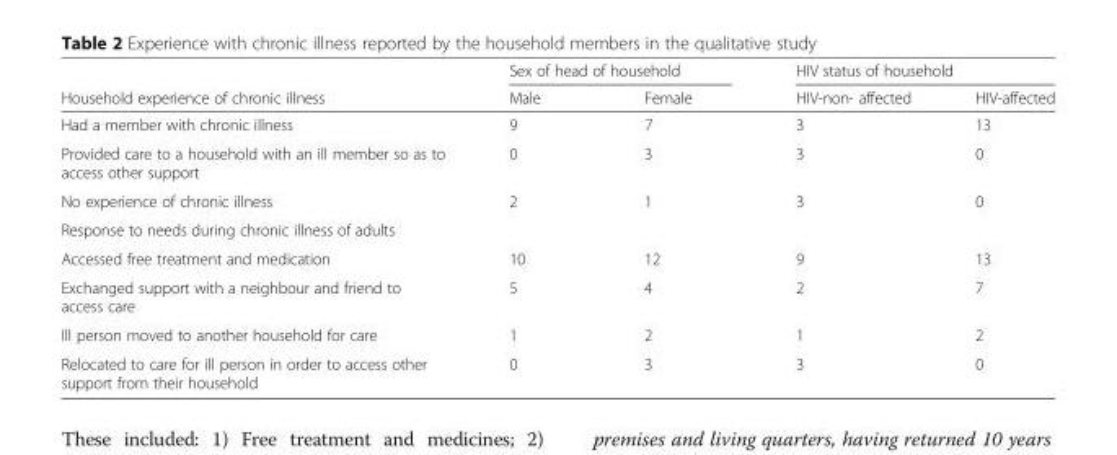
<table><thead><tr><td rowspan="2">Household experience of chronic illness</td><td colspan="2">Sex of head of household</td><td colspan="2">HIV status of household</td></tr><tr><td>Male</td><td>Female</td><td>HIV-non- affected</td><td>HIV-affected</td></tr></thead><tbody><tr><td>Had a member with chronic illness</td><td>9</td><td>7</td><td>3</td><td>13</td></tr><tr><td>Provided care to a household with an ill member so as to access other support</td><td>0</td><td>3</td><td>3</td><td>0</td></tr><tr><td>No experience of chronic illness</td><td>2</td><td>1</td><td>3</td><td>0</td></tr><tr><td colspan="5">Response to needs during chronic illness of adults</td></tr><tr><td>Accessed free treatment and medication</td><td>10</td><td>12</td><td>9</td><td>13</td></tr><tr><td>Exchanged support with a neighbour and friend to access care</td><td>5</td><td>4</td><td>2</td><td>7</td></tr><tr><td>Ill person moved to another household for care</td><td>1</td><td>2</td><td>1</td><td>2</td></tr><tr><td>Relocated to care for ill person in order to access other support from their household</td><td>0</td><td>3</td><td>3</td><td>0</td></tr></tbody></table>